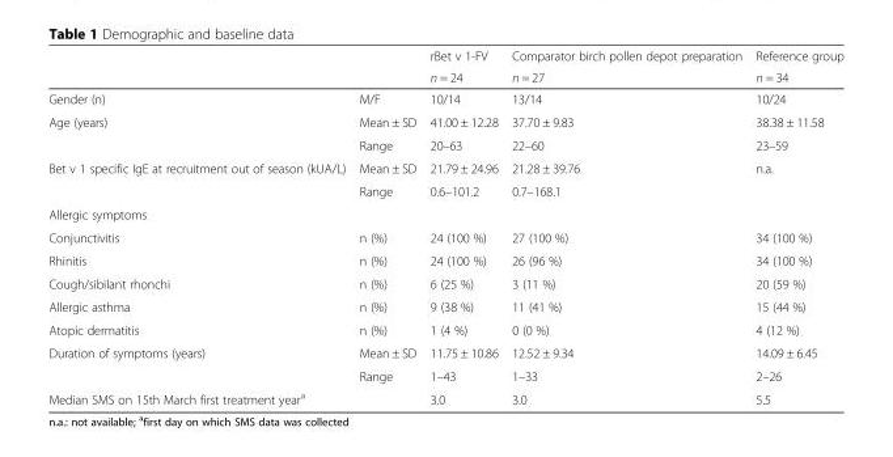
<table><thead><tr><td rowspan="2"></td><td rowspan="2"></td><td rowspan="2">rBet v 1-FV n = 24</td><td rowspan="2">Comparator birch pollen depot preparation n = 27</td><td rowspan="2">Reference group n = 34</td></tr><tr></tr></thead><tbody><tr><td>Gender (n)</td><td>M/F</td><td>10/14</td><td>13/14</td><td>10/24</td></tr><tr><td rowspan="2">Age (years)</td><td>Mean ± SD</td><td>41.00 ± 12.28</td><td>37.70 ± 9.83</td><td>38.38 ± 11.58</td></tr><tr><td>Range</td><td>20–63</td><td>22–60</td><td>23–59</td></tr><tr><td rowspan="2">Bet v 1 specific IgE at recruitment out of season (kUA/L)</td><td>Mean ± SD</td><td>21.79 ± 24.96</td><td>21.28 ± 39.76</td><td rowspan="2">n.a.</td></tr><tr><td>Range</td><td>0.6–101.2</td><td>0.7–168.1</td></tr><tr><td colspan="5">Allergic symptoms</td></tr><tr><td>Conjunctivitis</td><td>n (%)</td><td>24 (100 %)</td><td>27 (100 %)</td><td>34 (100 %)</td></tr><tr><td>Rhinitis</td><td>n (%)</td><td>24 (100 %)</td><td>26 (96 %)</td><td>34 (100 %)</td></tr><tr><td>Cough/sibilant rhonchi</td><td>n (%)</td><td>6 (25 %)</td><td>3 (11 %)</td><td>20 (59 %)</td></tr><tr><td>Allergic asthma</td><td>n (%)</td><td>9 (38 %)</td><td>11 (41 %)</td><td>15 (44 %)</td></tr><tr><td>Atopic dermatitis</td><td>n (%)</td><td>1 (4 %)</td><td>0 (0 %)</td><td>4 (12 %)</td></tr><tr><td rowspan="2">Duration of symptoms (years)</td><td>Mean ± SD</td><td>11.75 ± 10.86</td><td>12.52 ± 9.34</td><td>14.09 ± 6.45</td></tr><tr><td>Range</td><td>1–43</td><td>1–33</td><td>2–26</td></tr><tr><td>Median SMS on 15th March first treatment year<sup>a</sup></td><td></td><td>3.0</td><td>3.0</td><td>5.5</td></tr></tbody></table>